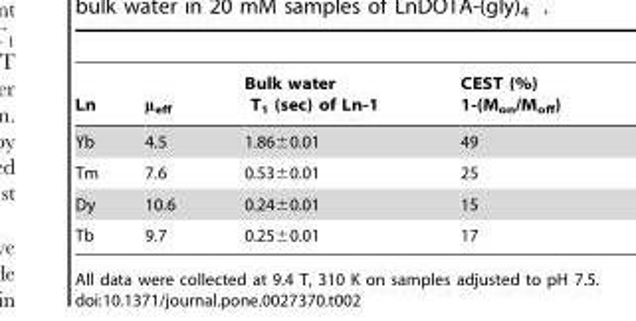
<table><thead><tr><td>Ln</td><td>μ<sub>eff</sub></td><td>Bulk water T<sub>1</sub> (sec) of Ln-1</td><td>CEST (%) 1-(M<sub>on</sub>/M<sub>off</sub>)</td></tr></thead><tbody><tr><td>Yb</td><td>4.5</td><td>1.86±0.01</td><td>49</td></tr><tr><td>Tm</td><td>7.6</td><td>0.53±0.01</td><td>25</td></tr><tr><td>Dy</td><td>10.6</td><td>0.24±0.01</td><td>15</td></tr><tr><td>Tb</td><td>9.7</td><td>0.25±0.01</td><td>17</td></tr></tbody></table>